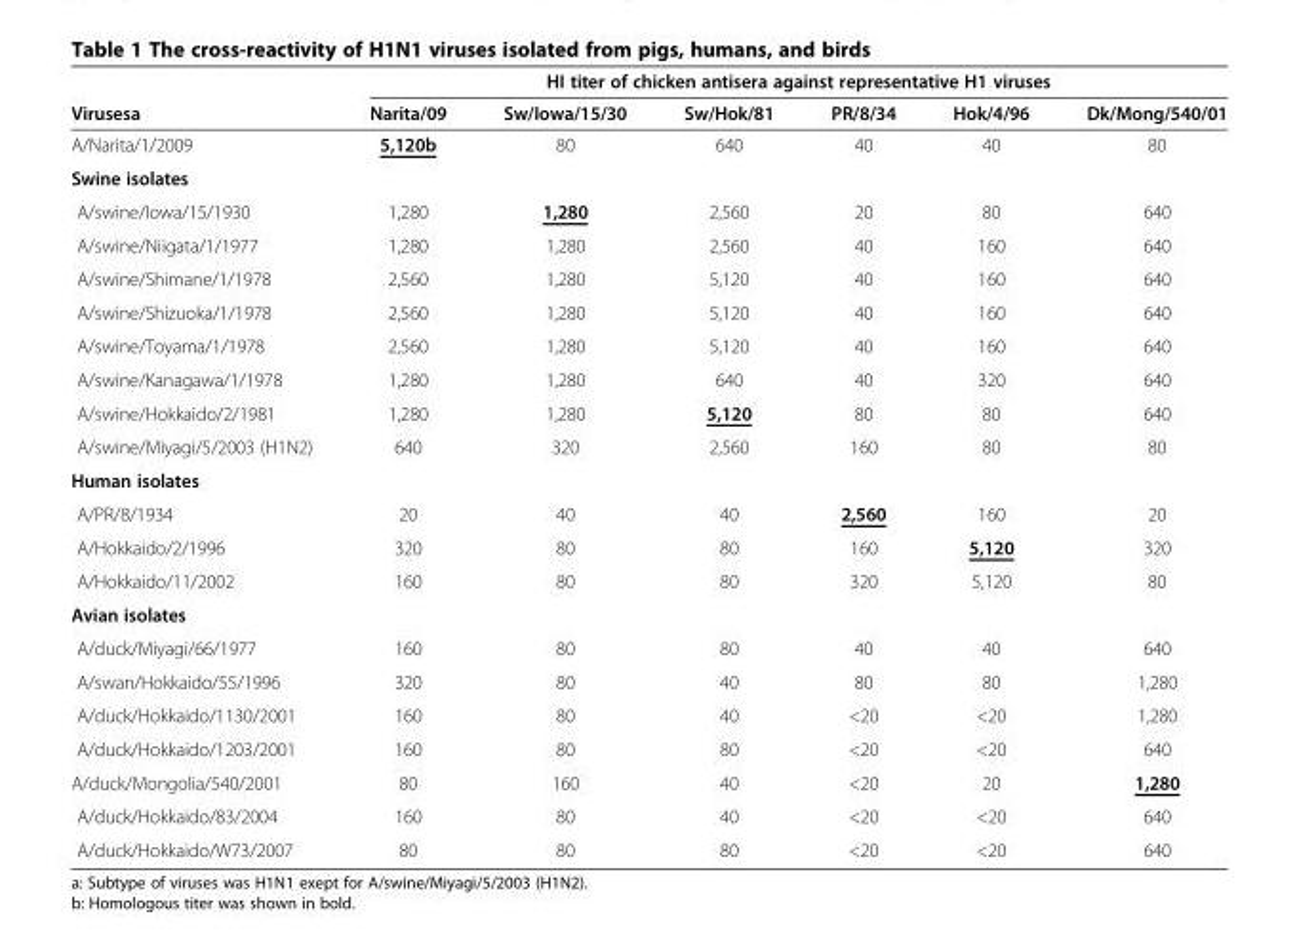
<table><thead><tr><td rowspan="2">Virusesa</td><td colspan="6">HI titer of chicken antisera against representative H1 viruses</td></tr><tr><td>Narita/09</td><td>Sw/Iowa/15/30</td><td>Sw/Hok/81</td><td>PR/8/34</td><td>Hok/4/96</td><td>Dk/Mong/540/01</td></tr></thead><tbody><tr><td>A/Narita/1/2009</td><td>5,120b</td><td>80</td><td>640</td><td>40</td><td>40</td><td>80</td></tr><tr><td colspan="7">Swine isolates</td></tr><tr><td>A/swine/Iowa/15/1930</td><td>1,280</td><td>1,280</td><td>2,560</td><td>20</td><td>80</td><td>640</td></tr><tr><td>A/swine/Niigata/1/1977</td><td>1,280</td><td>1,280</td><td>2,560</td><td>40</td><td>160</td><td>640</td></tr><tr><td>A/swine/Shimane/1/1978</td><td>2,560</td><td>1,280</td><td>5,120</td><td>40</td><td>160</td><td>640</td></tr><tr><td>A/swine/Shizuoka/1/1978</td><td>2,560</td><td>1,280</td><td>5,120</td><td>40</td><td>160</td><td>640</td></tr><tr><td>A/swine/Toyama/1/1978</td><td>2,560</td><td>1,280</td><td>5,120</td><td>40</td><td>160</td><td>640</td></tr><tr><td>A/swine/Kanagawa/1/1978</td><td>1,280</td><td>1,280</td><td>640</td><td>40</td><td>320</td><td>640</td></tr><tr><td>A/swine/Hokkaido/2/1981</td><td>1,280</td><td>1,280</td><td>5,120</td><td>80</td><td>80</td><td>640</td></tr><tr><td>A/swine/Miyagi/5/2003 (H1N2)</td><td>640</td><td>320</td><td>2,560</td><td>160</td><td>80</td><td>80</td></tr><tr><td colspan="7">Human isolates</td></tr><tr><td>A/PR/8/1934</td><td>20</td><td>40</td><td>40</td><td>2,560</td><td>160</td><td>20</td></tr><tr><td>A/Hokkaido/2/1996</td><td>320</td><td>80</td><td>80</td><td>160</td><td>5,120</td><td>320</td></tr><tr><td>A/Hokkaido/11/2002</td><td>160</td><td>80</td><td>80</td><td>320</td><td>5,120</td><td>80</td></tr><tr><td colspan="7">Avian isolates</td></tr><tr><td>A/duck/Miyagi/66/1977</td><td>160</td><td>80</td><td>80</td><td>40</td><td>40</td><td>640</td></tr><tr><td>A/swan/Hokkaido/55/1996</td><td>320</td><td>80</td><td>40</td><td>80</td><td>80</td><td>1,280</td></tr><tr><td>A/duck/Hokkaido/1130/2001</td><td>160</td><td>80</td><td>40</td><td>&lt;20</td><td>&lt;20</td><td>1,280</td></tr><tr><td>A/duck/Hokkaido/1203/2001</td><td>160</td><td>80</td><td>80</td><td>&lt;20</td><td>&lt;20</td><td>640</td></tr><tr><td>A/duck/Mongolia/540/2001</td><td>80</td><td>160</td><td>40</td><td>&lt;20</td><td>20</td><td>1,280</td></tr><tr><td>A/duck/Hokkaido/83/2004</td><td>160</td><td>80</td><td>40</td><td>&lt;20</td><td>&lt;20</td><td>640</td></tr><tr><td>A/duck/Hokkaido/W73/2007</td><td>80</td><td>80</td><td>80</td><td>&lt;20</td><td>&lt;20</td><td>640</td></tr></tbody></table>